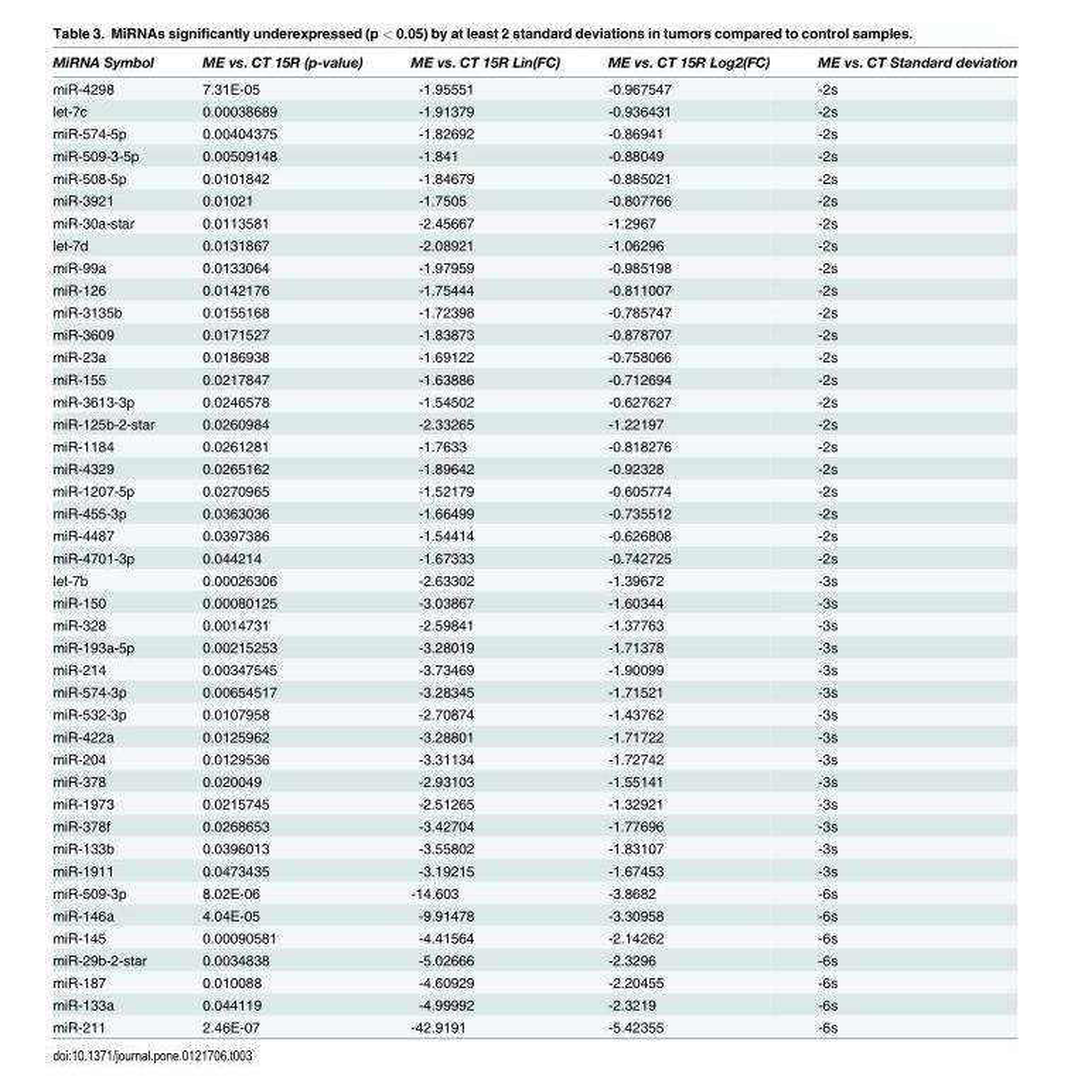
<table><thead><tr><td>MiRNA Symbol</td><td>ME vs. CT 15R (p-value)</td><td>ME vs. CT 15R Lin(FC)</td><td>ME vs. CT 15R Log2(FC)</td><td>ME vs. CT Standard deviation</td></tr></thead><tbody><tr><td>miR-4298</td><td>7.31E-05</td><td>-1.95551</td><td>-0.967547</td><td>-2s</td></tr><tr><td>let-7c</td><td>0.00038689</td><td>-1.91379</td><td>-0.936431</td><td>-2s</td></tr><tr><td>miR-574-5p</td><td>0.00404375</td><td>-1.82692</td><td>-0.86941</td><td>-2s</td></tr><tr><td>miR-509-3-5p</td><td>0.00509148</td><td>-1.841</td><td>-0.88049</td><td>-2s</td></tr><tr><td>miR-508-5p</td><td>0.0101842</td><td>-1.84679</td><td>-0.885021</td><td>-2s</td></tr><tr><td>miR-3921</td><td>0.01021</td><td>-1.7505</td><td>-0.807766</td><td>-2s</td></tr><tr><td>miR-30a-star</td><td>0.0113581</td><td>-2.45667</td><td>-1.2967</td><td>-2s</td></tr><tr><td>let-7d</td><td>0.0131867</td><td>-2.08921</td><td>-1.06296</td><td>-2s</td></tr><tr><td>miR-99a</td><td>0.0133064</td><td>-1.97959</td><td>-0.985198</td><td>-2s</td></tr><tr><td>miR-126</td><td>0.0142176</td><td>-1.75444</td><td>-0.811007</td><td>-2s</td></tr><tr><td>miR-3135b</td><td>0.0155168</td><td>-1.72398</td><td>-0.785747</td><td>-2s</td></tr><tr><td>miR-3609</td><td>0.0171527</td><td>-1.83873</td><td>-0.878707</td><td>-2s</td></tr><tr><td>miR-23a</td><td>0.0186938</td><td>-1.69122</td><td>-0.758066</td><td>-2s</td></tr><tr><td>miR-155</td><td>0.0217847</td><td>-1.63886</td><td>-0.712694</td><td>-2s</td></tr><tr><td>miR-3613-3p</td><td>0.0246578</td><td>-1.54502</td><td>-0.627627</td><td>-2s</td></tr><tr><td>miR-125b-2-star</td><td>0.0260984</td><td>-2.33265</td><td>-1.22197</td><td>-2s</td></tr><tr><td>miR-1184</td><td>0.0261281</td><td>-1.7633</td><td>-0.818276</td><td>-2s</td></tr><tr><td>miR-4329</td><td>0.0265162</td><td>-1.89642</td><td>-0.92328</td><td>-2s</td></tr><tr><td>miR-1207-5p</td><td>0.0270965</td><td>-1.52179</td><td>-0.605774</td><td>-2s</td></tr><tr><td>miR-455-3p</td><td>0.0363036</td><td>-1.66499</td><td>-0.735512</td><td>-2s</td></tr><tr><td>miR-4487</td><td>0.0397386</td><td>-1.54414</td><td>-0.626808</td><td>-2s</td></tr><tr><td>miR-4701-3p</td><td>0.044214</td><td>-1.67333</td><td>-0.742725</td><td>-2s</td></tr><tr><td>let-7b</td><td>0.00026306</td><td>-2.63302</td><td>-1.39672</td><td>-3s</td></tr><tr><td>miR-150</td><td>0.00080125</td><td>-3.03867</td><td>-1.60344</td><td>-3s</td></tr><tr><td>miR-328</td><td>0.0014731</td><td>-2.59841</td><td>-1.37763</td><td>-3s</td></tr><tr><td>miR-193a-5p</td><td>0.00215253</td><td>-3.28019</td><td>-1.71378</td><td>-3s</td></tr><tr><td>miR-214</td><td>0.00347545</td><td>-3.73469</td><td>-1.90099</td><td>-3s</td></tr><tr><td>miR-574-3p</td><td>0.00654517</td><td>-3.28345</td><td>-1.71521</td><td>-3s</td></tr><tr><td>miR-532-3p</td><td>0.0107958</td><td>-2.70874</td><td>-1.43762</td><td>-3s</td></tr><tr><td>miR-422a</td><td>0.0125962</td><td>-3.28801</td><td>-1.71722</td><td>-3s</td></tr><tr><td>miR-204</td><td>0.0129536</td><td>-3.31134</td><td>-1.72742</td><td>-3s</td></tr><tr><td>miR-378</td><td>0.020049</td><td>-2.93103</td><td>-1.55141</td><td>-3s</td></tr><tr><td>miR-1973</td><td>0.0215745</td><td>-2.51265</td><td>-1.32921</td><td>-3s</td></tr><tr><td>miR-378f</td><td>0.0268653</td><td>-3.42704</td><td>-1.77696</td><td>-3s</td></tr><tr><td>miR-133b</td><td>0.0396013</td><td>-3.55802</td><td>-1.83107</td><td>-3s</td></tr><tr><td>miR-1911</td><td>0.0473435</td><td>-3.19215</td><td>-1.67453</td><td>-3s</td></tr><tr><td>miR-509-3p</td><td>8.02E-06</td><td>-14.603</td><td>-3.8682</td><td>-6s</td></tr><tr><td>miR-146a</td><td>4.04E-05</td><td>-9.91478</td><td>-3.30958</td><td>-6s</td></tr><tr><td>miR-145</td><td>0.00090581</td><td>-4.41564</td><td>-2.14262</td><td>-6s</td></tr><tr><td>miR-29b-2-star</td><td>0.0034838</td><td>-5.02666</td><td>-2.3296</td><td>-6s</td></tr><tr><td>miR-187</td><td>0.010088</td><td>-4.60929</td><td>-2.20455</td><td>-6s</td></tr><tr><td>miR-133a</td><td>0.044119</td><td>-4.99992</td><td>-2.3219</td><td>-6s</td></tr><tr><td>miR-211</td><td>2.46E-07</td><td>-42.9191</td><td>-5.42355</td><td>-6s</td></tr></tbody></table>